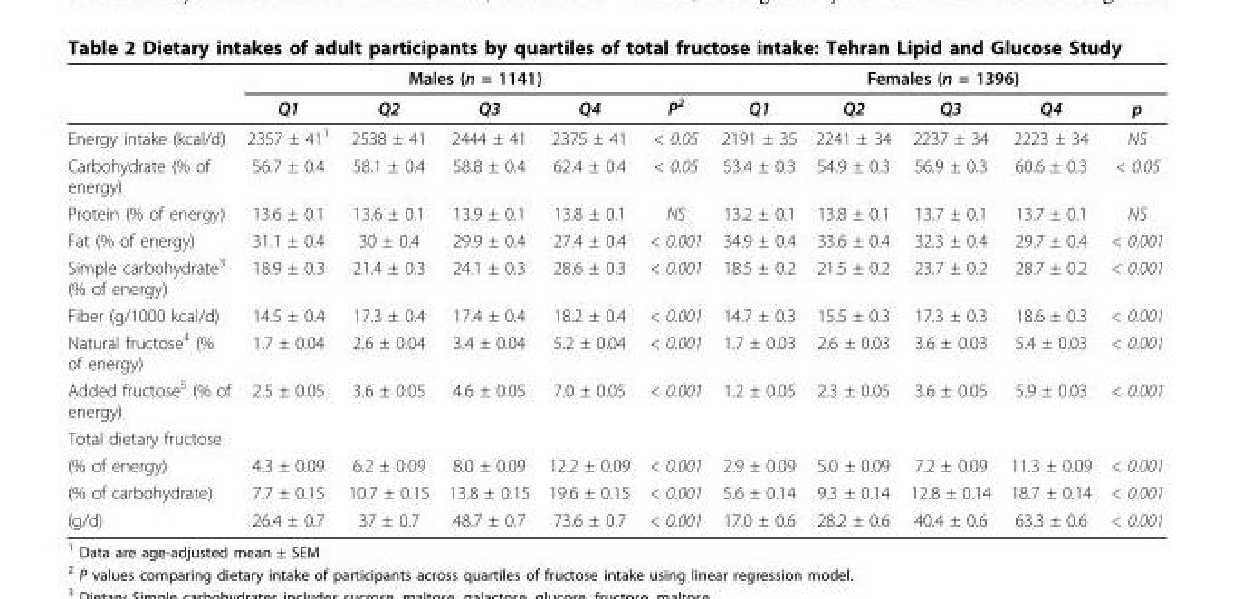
<table><thead><tr><td rowspan="2"></td><td colspan="5">Males (n = 1141)</td><td colspan="5">Females (n = 1396)</td></tr><tr><td>Q1</td><td>Q2</td><td>Q3</td><td>Q4</td><td>P<sup>2</sup></td><td>Q1</td><td>Q2</td><td>Q3</td><td>Q4</td><td>p</td></tr></thead><tbody><tr><td>Energy intake (kcal/d)</td><td>2357 ± 41<sup>1</sup></td><td>2538 ± 41</td><td>2444 ± 41</td><td>2375 ± 41</td><td>&lt; 0.05</td><td>2191 ± 35</td><td>2241 ± 34</td><td>2237 ± 34</td><td>2223 ± 34</td><td>NS</td></tr><tr><td>Carbohydrate (% of energy)</td><td>56.7 ± 0.4</td><td>58.1 ± 0.4</td><td>58.8 ± 0.4</td><td>62.4 ± 0.4</td><td>&lt; 0.05</td><td>53.4 ± 0.3</td><td>54.9 ± 0.3</td><td>56.9 ± 0.3</td><td>60.6 ± 0.3</td><td>&lt; 0.05</td></tr><tr><td>Protein (% of energy)</td><td>13.6 ± 0.1</td><td>13.6 ± 0.1</td><td>13.9 ± 0.1</td><td>13.8 ± 0.1</td><td>NS</td><td>13.2 ± 0.1</td><td>13.8 ± 0.1</td><td>13.7 ± 0.1</td><td>13.7 ± 0.1</td><td>NS</td></tr><tr><td>Fat (% of energy)</td><td>31.1 ± 0.4</td><td>30 ± 0.4</td><td>29.9 ± 0.4</td><td>27.4 ± 0.4</td><td>&lt; 0.001</td><td>34.9 ± 0.4</td><td>33.6 ± 0.4</td><td>32.3 ± 0.4</td><td>29.7 ± 0.4</td><td>&lt; 0.001</td></tr><tr><td>Simple carbohydrate<sup>3</sup> (% of energy)</td><td>18.9 ± 0.3</td><td>21.4 ± 0.3</td><td>24.1 ± 0.3</td><td>28.6 ± 0.3</td><td>&lt; 0.001</td><td>18.5 ± 0.2</td><td>21.5 ± 0.2</td><td>23.7 ± 0.2</td><td>28.7 ± 0.2</td><td>&lt; 0.001</td></tr><tr><td>Fiber (g/1000 kcal/d)</td><td>14.5 ± 0.4</td><td>17.3 ± 0.4</td><td>17.4 ± 0.4</td><td>18.2 ± 0.4</td><td>&lt; 0.001</td><td>14.7 ± 0.3</td><td>15.5 ± 0.3</td><td>17.3 ± 0.3</td><td>18.6 ± 0.3</td><td>&lt; 0.001</td></tr><tr><td>Natural fructose<sup>4</sup> (% of energy)</td><td>1.7 ± 0.04</td><td>2.6 ± 0.04</td><td>3.4 ± 0.04</td><td>5.2 ± 0.04</td><td>&lt; 0.001</td><td>1.7 ± 0.03</td><td>2.6 ± 0.03</td><td>3.6 ± 0.03</td><td>5.4 ± 0.03</td><td>&lt; 0.001</td></tr><tr><td>Added fructose<sup>5</sup> (% of energy)</td><td>2.5 ± 0.05</td><td>3.6 ± 0.05</td><td>4.6 ± 0.05</td><td>7.0 ± 0.05</td><td>&lt; 0.001</td><td>1.2 ± 0.05</td><td>2.3 ± 0.05</td><td>3.6 ± 0.05</td><td>5.9 ± 0.03</td><td>&lt; 0.001</td></tr><tr><td colspan="11">Total dietary fructose</td></tr><tr><td>(% of energy)</td><td>4.3 ± 0.09</td><td>6.2 ± 0.09</td><td>8.0 ± 0.09</td><td>12.2 ± 0.09</td><td>&lt; 0.001</td><td>2.9 ± 0.09</td><td>5.0 ± 0.09</td><td>7.2 ± 0.09</td><td>11.3 ± 0.09</td><td>&lt; 0.001</td></tr><tr><td>(% of carbohydrate)</td><td>7.7 ± 0.15</td><td>10.7 ± 0.15</td><td>13.8 ± 0.15</td><td>19.6 ± 0.15</td><td>&lt; 0.001</td><td>5.6 ± 0.14</td><td>9.3 ± 0.14</td><td>12.8 ± 0.14</td><td>18.7 ± 0.14</td><td>&lt; 0.001</td></tr><tr><td>(g/d)</td><td>26.4 ± 0.7</td><td>37 ± 0.7</td><td>48.7 ± 0.7</td><td>73.6 ± 0.7</td><td>&lt; 0.001</td><td>17.0 ± 0.6</td><td>28.2 ± 0.6</td><td>40.4 ± 0.6</td><td>63.3 ± 0.6</td><td>&lt; 0.001</td></tr></tbody></table>